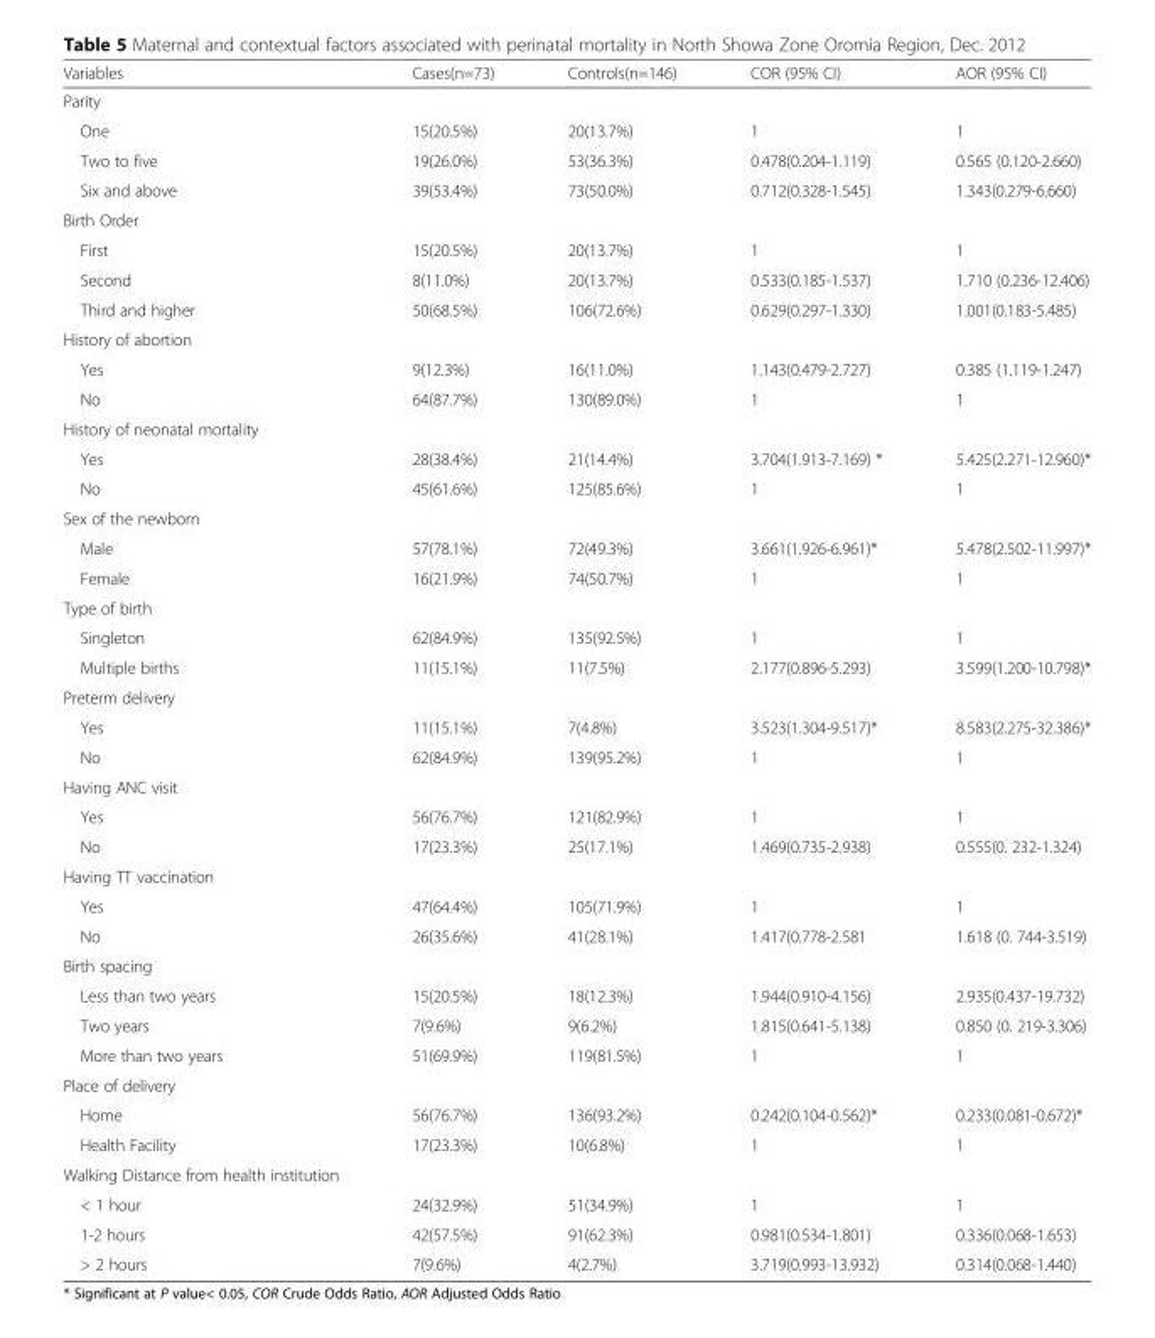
<table><thead><tr><td>Variables</td><td>Cases(n=73)</td><td>Controls(n=146)</td><td>COR (95% CI)</td><td>AOR (95% CI)</td></tr></thead><tbody><tr><td colspan="5">Parity</td></tr><tr><td>One</td><td>15(20.5%)</td><td>20(13.7%)</td><td>1</td><td>1</td></tr><tr><td>Two to five</td><td>19(26.0%)</td><td>53(36.3%)</td><td>0.478(0.204-1.119)</td><td>0.565 (0.120-2.660)</td></tr><tr><td>Six and above</td><td>39(53.4%)</td><td>73(50.0%)</td><td>0.712(0.328-1.545)</td><td>1.343(0.279-6.660)</td></tr><tr><td colspan="5">Birth Order</td></tr><tr><td>First</td><td>15(20.5%)</td><td>20(13.7%)</td><td>1</td><td>1</td></tr><tr><td>Second</td><td>8(11.0%)</td><td>20(13.7%)</td><td>0.533(0.185-1.537)</td><td>1.710 (0.236-12.406)</td></tr><tr><td>Third and higher</td><td>50(68.5%)</td><td>106(72.6%)</td><td>0.629(0.297-1.330)</td><td>1.001(0.183-5.485)</td></tr><tr><td colspan="5">History of abortion</td></tr><tr><td>Yes</td><td>9(12.3%)</td><td>16(11.0%)</td><td>1.143(0.479-2.727)</td><td>0.385 (1.119-1.247)</td></tr><tr><td>No</td><td>64(87.7%)</td><td>130(89.0%)</td><td>1</td><td>1</td></tr><tr><td colspan="5">History of neonatal mortality</td></tr><tr><td>Yes</td><td>28(38.4%)</td><td>21(14.4%)</td><td>3.704(1.913-7.169) *</td><td>5.425(2.271-12.960)*</td></tr><tr><td>No</td><td>45(61.6%)</td><td>125(85.6%)</td><td>1</td><td>1</td></tr><tr><td colspan="5">Sex of the newborn</td></tr><tr><td>Male</td><td>57(78.1%)</td><td>72(49.3%)</td><td>3.661(1.926-6.961)*</td><td>5.478(2.502-11.997)*</td></tr><tr><td>Female</td><td>16(21.9%)</td><td>74(50.7%)</td><td>1</td><td>1</td></tr><tr><td colspan="5">Type of birth</td></tr><tr><td>Singleton</td><td>62(84.9%)</td><td>135(92.5%)</td><td>1</td><td>1</td></tr><tr><td>Multiple births</td><td>11(15.1%)</td><td>11(7.5%)</td><td>2.177(0.896-5.293)</td><td>3.599(1.200-10.798)*</td></tr><tr><td colspan="5">Preterm delivery</td></tr><tr><td>Yes</td><td>11(15.1%)</td><td>7(4.8%)</td><td>3.523(1.304-9.517)*</td><td>8.583(2.275-32.386)*</td></tr><tr><td>No</td><td>62(84.9%)</td><td>139(95.2%)</td><td>1</td><td>1</td></tr><tr><td colspan="5">Having ANC visit</td></tr><tr><td>Yes</td><td>56(76.7%)</td><td>121(82.9%)</td><td>1</td><td>1</td></tr><tr><td>No</td><td>17(23.3%)</td><td>25(17.1%)</td><td>1.469(0.735-2.938)</td><td>0.555(0. 232-1.324)</td></tr><tr><td colspan="5">Having TT vaccination</td></tr><tr><td>Yes</td><td>47(64.4%)</td><td>105(71.9%)</td><td>1</td><td>1</td></tr><tr><td>No</td><td>26(35.6%)</td><td>41(28.1%)</td><td>1.417(0.778-2.581</td><td>1.618 (0. 744-3.519)</td></tr><tr><td colspan="5">Birth spacing</td></tr><tr><td>Less than two years</td><td>15(20.5%)</td><td>18(12.3%)</td><td>1.944(0.910-4.156)</td><td>2.935(0.437-19.732)</td></tr><tr><td>Two years</td><td>7(9.6%)</td><td>9(6.2%)</td><td>1.815(0.641-5.138)</td><td>0.850 (0. 219-3.306)</td></tr><tr><td>More than two years</td><td>51(69.9%)</td><td>119(81.5%)</td><td>1</td><td>1</td></tr><tr><td colspan="5">Place of delivery</td></tr><tr><td>Home</td><td>56(76.7%)</td><td>136(93.2%)</td><td>0.242(0.104-0.562)*</td><td>0.233(0.081-0.672)*</td></tr><tr><td>Health Facility</td><td>17(23.3%)</td><td>10(6.8%)</td><td>1</td><td>1</td></tr><tr><td colspan="5">Walking Distance from health institution</td></tr><tr><td>&lt; 1 hour</td><td>24(32.9%)</td><td>51(34.9%)</td><td>1</td><td>1</td></tr><tr><td>1-2 hours</td><td>42(57.5%)</td><td>91(62.3%)</td><td>0.981(0.534-1.801)</td><td>0.336(0.068-1.653)</td></tr><tr><td>&gt; 2 hours</td><td>7(9.6%)</td><td>4(2.7%)</td><td>3.719(0.993-13.932)</td><td>0.314(0.068-1.440)</td></tr></tbody></table>